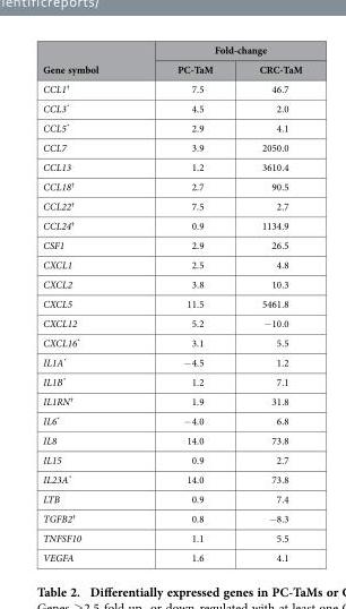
<table><thead><tr><td rowspan="2">Gene symbol</td><td colspan="2">Fold-change</td></tr><tr><td>PC-TaM</td><td>CRC-TaM</td></tr></thead><tbody><tr><td>CCL1†</td><td>7.5</td><td>46.7</td></tr><tr><td>CCL3*</td><td>4.5</td><td>2.0</td></tr><tr><td>CCL5*</td><td>2.9</td><td>4.1</td></tr><tr><td>CCL7</td><td>3.9</td><td>2050.0</td></tr><tr><td>CCL13</td><td>1.2</td><td>3610.4</td></tr><tr><td>CCL18†</td><td>2.7</td><td>90.5</td></tr><tr><td>CCL22†</td><td>7.5</td><td>2.7</td></tr><tr><td>CCL24†</td><td>0.9</td><td>1134.9</td></tr><tr><td>CSF1</td><td>2.9</td><td>26.5</td></tr><tr><td>CXCL1</td><td>2.5</td><td>4.8</td></tr><tr><td>CXCL2</td><td>3.8</td><td>10.3</td></tr><tr><td>CXCL5</td><td>11.5</td><td>5461.8</td></tr><tr><td>CXCL12</td><td>5.2</td><td>−10.0</td></tr><tr><td>CXCL16*</td><td>3.1</td><td>5.5</td></tr><tr><td>IL1A*</td><td>− 4.5</td><td>1.2</td></tr><tr><td>IL1B*</td><td>1.2</td><td>7.1</td></tr><tr><td>IL1RN†</td><td>1.9</td><td>31.8</td></tr><tr><td>IL6*</td><td>− 4.0</td><td>6.8</td></tr><tr><td>IL8</td><td>14.0</td><td>73.8</td></tr><tr><td>IL15</td><td>0.9</td><td>2.7</td></tr><tr><td>IL23A*</td><td>14.0</td><td>73.8</td></tr><tr><td>LTB</td><td>0.9</td><td>7.4</td></tr><tr><td>TGFB2†</td><td>0.8</td><td>−8.3</td></tr><tr><td>TNFSF10</td><td>1.1</td><td>5.5</td></tr><tr><td>VEGFA</td><td>1.6</td><td>4.1</td></tr></tbody></table>